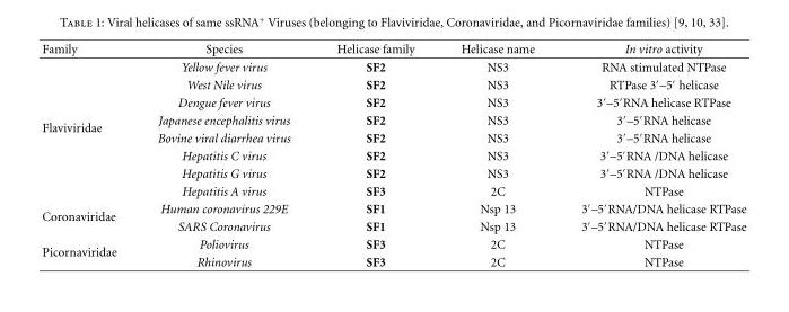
<table><thead><tr><td>Family</td><td>Species</td><td>Helicase family</td><td>Helicase name</td><td>In vitro activity</td></tr></thead><tbody><tr><td rowspan="8">Flaviviridae</td><td>Yellow fever virus</td><td>SF2</td><td>NS3</td><td>RNA stimulated NTPase</td></tr><tr><td>West Nile virus</td><td>SF2</td><td>NS3</td><td>RTPase 3′–5′ helicase</td></tr><tr><td>Dengue fever virus</td><td>SF2</td><td>NS3</td><td>3′–5′RNA helicase RTPase</td></tr><tr><td>Japanese encephalitis virus</td><td>SF2</td><td>NS3</td><td>3′–5′RNA helicase</td></tr><tr><td>Bovine viral diarrhea virus</td><td>SF2</td><td>NS3</td><td>3′–5′RNA helicase</td></tr><tr><td>Hepatitis C virus</td><td>SF2</td><td>NS3</td><td>3′–5′RNA /DNA helicase</td></tr><tr><td>Hepatitis G virus</td><td>SF2</td><td>NS3</td><td>3′–5′RNA /DNA helicase</td></tr><tr><td>Hepatitis A virus</td><td>SF3</td><td>2C</td><td>NTPase</td></tr><tr><td rowspan="2">Coronaviridae</td><td>Human coronavirus 229E</td><td>SF1</td><td>Nsp 13</td><td>3′–5′RNA/DNA helicase RTPase</td></tr><tr><td>SARS Coronavirus</td><td>SF1</td><td>Nsp 13</td><td>3′–5′RNA/DNA helicase RTPase</td></tr><tr><td rowspan="2">Picornaviridae</td><td>Poliovirus</td><td>SF3</td><td>2C</td><td>NTPase</td></tr><tr><td>Rhinovirus</td><td>SF3</td><td>2C</td><td>NTPase</td></tr></tbody></table>